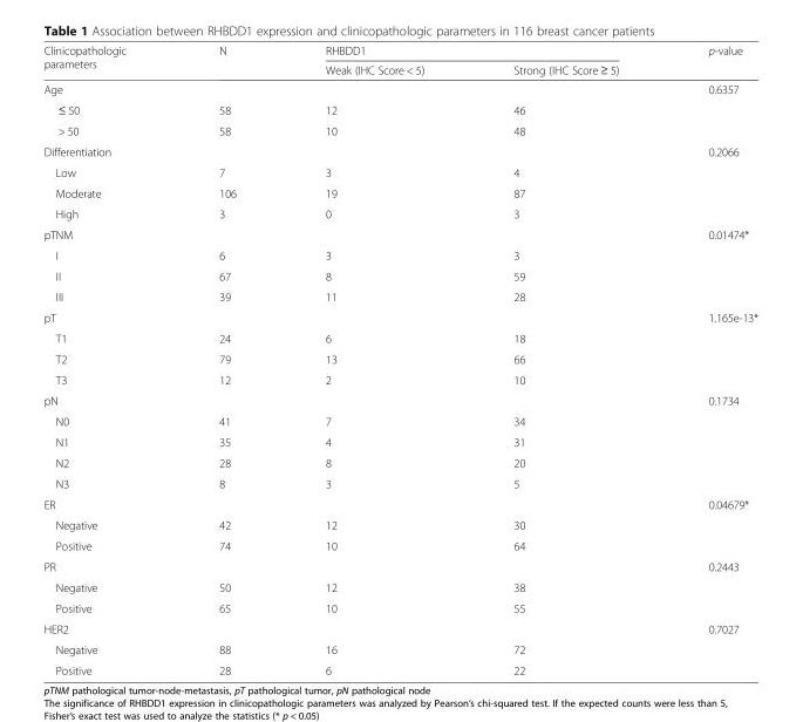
<table><thead><tr><td rowspan="2">Clinicopathologic parameters</td><td rowspan="2">N</td><td colspan="2">RHBDD1</td><td rowspan="2">p-value</td></tr><tr><td>Weak (IHC Score &lt; 5)</td><td>Strong (IHC Score ≥ 5)</td></tr></thead><tbody><tr><td>Age</td><td></td><td></td><td></td><td>0.6357</td></tr><tr><td>≤ 50</td><td>58</td><td>12</td><td>46</td><td></td></tr><tr><td>&gt; 50</td><td>58</td><td>10</td><td>48</td><td></td></tr><tr><td>Differentiation</td><td></td><td></td><td></td><td>0.2066</td></tr><tr><td>Low</td><td>7</td><td>3</td><td>4</td><td></td></tr><tr><td>Moderate</td><td>106</td><td>19</td><td>87</td><td></td></tr><tr><td>High</td><td>3</td><td>0</td><td>3</td><td></td></tr><tr><td>pTNM</td><td></td><td></td><td></td><td>0.01474*</td></tr><tr><td>I</td><td>6</td><td>3</td><td>3</td><td></td></tr><tr><td>II</td><td>67</td><td>8</td><td>59</td><td></td></tr><tr><td>III</td><td>39</td><td>11</td><td>28</td><td></td></tr><tr><td>pT</td><td></td><td></td><td></td><td>1.165e-13*</td></tr><tr><td>T1</td><td>24</td><td>6</td><td>18</td><td></td></tr><tr><td>T2</td><td>79</td><td>13</td><td>66</td><td></td></tr><tr><td>T3</td><td>12</td><td>2</td><td>10</td><td></td></tr><tr><td>pN</td><td></td><td></td><td></td><td>0.1734</td></tr><tr><td>N0</td><td>41</td><td>7</td><td>34</td><td></td></tr><tr><td>N1</td><td>35</td><td>4</td><td>31</td><td></td></tr><tr><td>N2</td><td>28</td><td>8</td><td>20</td><td></td></tr><tr><td>N3</td><td>8</td><td>3</td><td>5</td><td></td></tr><tr><td>ER</td><td></td><td></td><td></td><td>0.04679*</td></tr><tr><td>Negative</td><td>42</td><td>12</td><td>30</td><td></td></tr><tr><td>Positive</td><td>74</td><td>10</td><td>64</td><td></td></tr><tr><td>PR</td><td></td><td></td><td></td><td>0.2443</td></tr><tr><td>Negative</td><td>50</td><td>12</td><td>38</td><td></td></tr><tr><td>Positive</td><td>65</td><td>10</td><td>55</td><td></td></tr><tr><td>HER2</td><td></td><td></td><td></td><td>0.7027</td></tr><tr><td>Negative</td><td>88</td><td>16</td><td>72</td><td></td></tr><tr><td>Positive</td><td>28</td><td>6</td><td>22</td><td></td></tr></tbody></table>